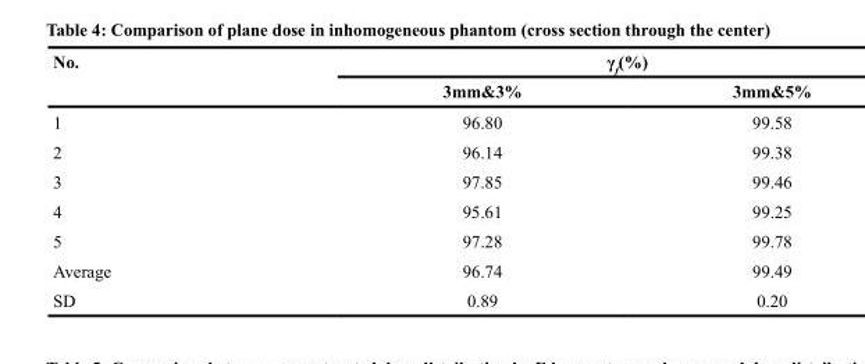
<table><thead><tr><td rowspan="2">No.</td><td colspan="2">γ<sub>f</sub>(%)</td></tr><tr><td>3mm&amp;3%</td><td>3mm&amp;5%</td></tr></thead><tbody><tr><td>1</td><td>96.80</td><td>99.58</td></tr><tr><td>2</td><td>96.14</td><td>99.38</td></tr><tr><td>3</td><td>97.85</td><td>99.46</td></tr><tr><td>4</td><td>95.61</td><td>99.25</td></tr><tr><td>5</td><td>97.28</td><td>99.78</td></tr><tr><td>Average</td><td>96.74</td><td>99.49</td></tr><tr><td>SD</td><td>0.89</td><td>0.20</td></tr></tbody></table>